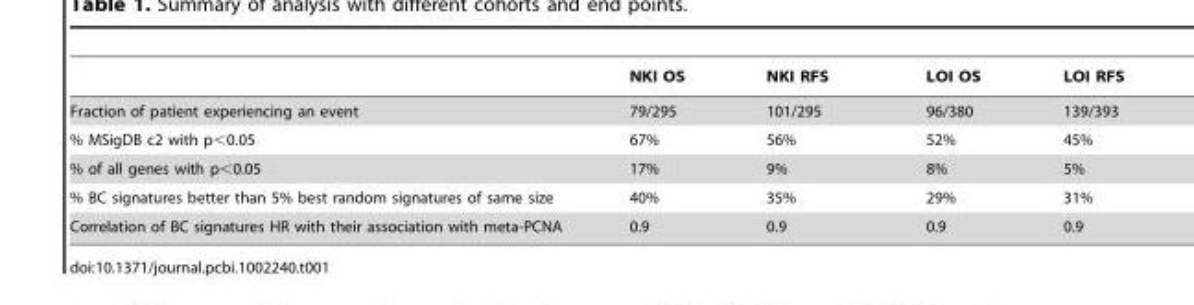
<table><thead><tr><td></td><td>NKI OS</td><td>NKI RFS</td><td>LOI OS</td><td>LOI RFS</td></tr></thead><tbody><tr><td>Fraction of patient experiencing an event</td><td>79/295</td><td>101/295</td><td>96/380</td><td>139/393</td></tr><tr><td>% MSigDB c2 with p&lt;0.05</td><td>67%</td><td>56%</td><td>52%</td><td>45%</td></tr><tr><td>% of all genes with p&lt;0.05</td><td>17%</td><td>9%</td><td>8%</td><td>5%</td></tr><tr><td>% BC signatures better than 5% best random signatures of same size</td><td>40%</td><td>35%</td><td>29%</td><td>31%</td></tr><tr><td>Correlation of BC signatures HR with their association with meta-PCNA</td><td>0.9</td><td>0.9</td><td>0.9</td><td>0.9</td></tr></tbody></table>